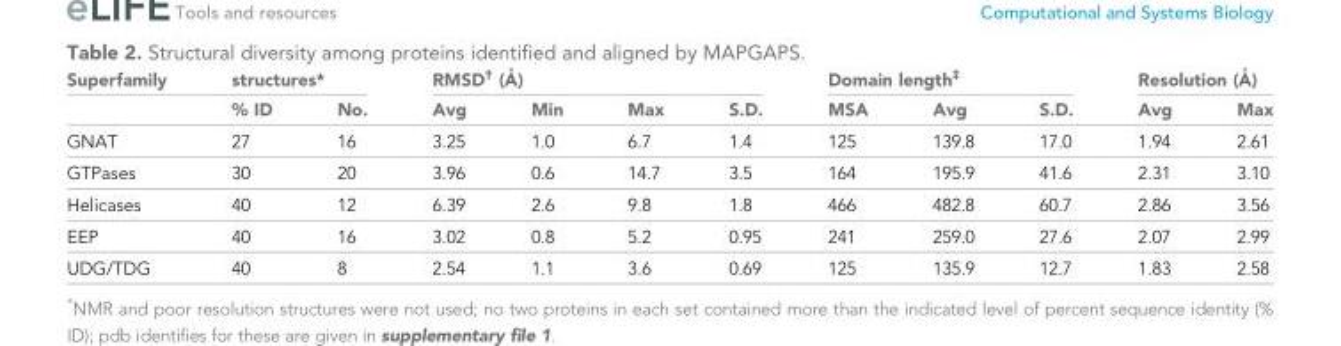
<table><thead><tr><td rowspan="2">Superfamily</td><td colspan="2">structures*</td><td colspan="4">RMSD† (A˚ )</td><td colspan="3">Domain length<sup>‡</sup></td><td colspan="2">Resolution (A˚ )</td></tr><tr><td>% ID</td><td>No.</td><td>Avg</td><td>Min</td><td>Max</td><td>S.D.</td><td>MSA</td><td>Avg</td><td>S.D.</td><td>Avg</td><td>Max</td></tr></thead><tbody><tr><td>GNAT</td><td>27</td><td>16</td><td>3.25</td><td>1.0</td><td>6.7</td><td>1.4</td><td>125</td><td>139.8</td><td>17.0</td><td>1.94</td><td>2.61</td></tr><tr><td>GTPases</td><td>30</td><td>20</td><td>3.96</td><td>0.6</td><td>14.7</td><td>3.5</td><td>164</td><td>195.9</td><td>41.6</td><td>2.31</td><td>3.10</td></tr><tr><td>Helicases</td><td>40</td><td>12</td><td>6.39</td><td>2.6</td><td>9.8</td><td>1.8</td><td>466</td><td>482.8</td><td>60.7</td><td>2.86</td><td>3.56</td></tr><tr><td>EEP</td><td>40</td><td>16</td><td>3.02</td><td>0.8</td><td>5.2</td><td>0.95</td><td>241</td><td>259.0</td><td>27.6</td><td>2.07</td><td>2.99</td></tr><tr><td>UDG/TDG</td><td>40</td><td>8</td><td>2.54</td><td>1.1</td><td>3.6</td><td>0.69</td><td>125</td><td>135.9</td><td>12.7</td><td>1.83</td><td>2.58</td></tr></tbody></table>